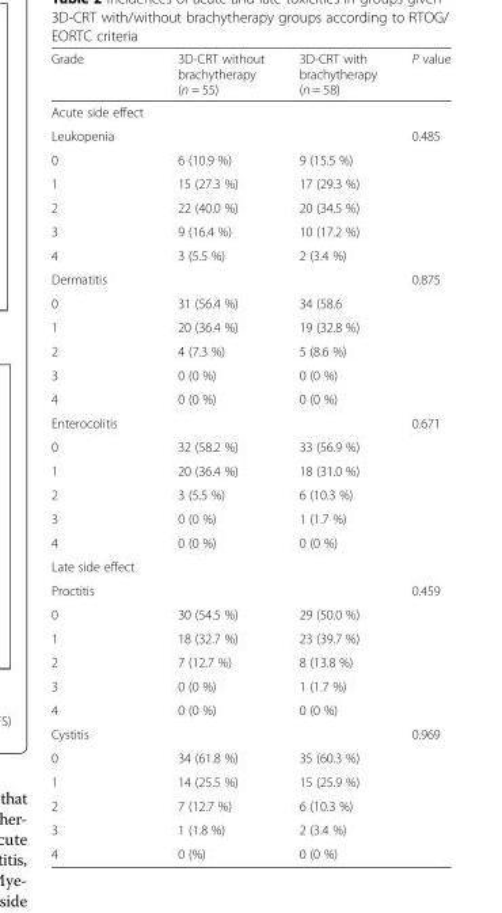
<table><thead><tr><td>Grade</td><td>3D-CRT without brachytherapy (n = 55)</td><td>3D-CRT with brachytherapy (n = 58)</td><td>P value</td></tr></thead><tbody><tr><td colspan="4">Acute side effect</td></tr><tr><td>Leukopenia</td><td></td><td></td><td>0.485</td></tr><tr><td>0</td><td>6 (10.9 %)</td><td>9 (15.5 %)</td><td></td></tr><tr><td>1</td><td>15 (27.3 %)</td><td>17 (29.3 %)</td><td></td></tr><tr><td>2</td><td>22 (40.0 %)</td><td>20 (34.5 %)</td><td></td></tr><tr><td>3</td><td>9 (16.4 %)</td><td>10 (17.2 %)</td><td></td></tr><tr><td>4</td><td>3 (5.5 %)</td><td>2 (3.4 %)</td><td></td></tr><tr><td>Dermatitis</td><td></td><td></td><td>0.875</td></tr><tr><td>0</td><td>31 (56.4 %)</td><td>34 (58.6</td><td></td></tr><tr><td>1</td><td>20 (36.4 %)</td><td>19 (32.8 %)</td><td></td></tr><tr><td>2</td><td>4 (7.3 %)</td><td>5 (8.6 %)</td><td></td></tr><tr><td>3</td><td>0 (0 %)</td><td>0 (0 %)</td><td></td></tr><tr><td>4</td><td>0 (0 %)</td><td>0 (0 %)</td><td></td></tr><tr><td>Enterocolitis</td><td></td><td></td><td>0.671</td></tr><tr><td>0</td><td>32 (58.2 %)</td><td>33 (56.9 %)</td><td></td></tr><tr><td>1</td><td>20 (36.4 %)</td><td>18 (31.0 %)</td><td></td></tr><tr><td>2</td><td>3 (5.5 %)</td><td>6 (10.3 %)</td><td></td></tr><tr><td>3</td><td>0 (0 %)</td><td>1 (1.7 %)</td><td></td></tr><tr><td>4</td><td>0 (0 %)</td><td>0 (0 %)</td><td></td></tr><tr><td colspan="4">Late side effect</td></tr><tr><td>Proctitis</td><td></td><td></td><td>0.459</td></tr><tr><td>0</td><td>30 (54.5 %)</td><td>29 (50.0 %)</td><td></td></tr><tr><td>1</td><td>18 (32.7 %)</td><td>23 (39.7 %)</td><td></td></tr><tr><td>2</td><td>7 (12.7 %)</td><td>8 (13.8 %)</td><td></td></tr><tr><td>3</td><td>0 (0 %)</td><td>1 (1.7 %)</td><td></td></tr><tr><td>4</td><td>0 (0 %)</td><td>0 (0 %)</td><td></td></tr><tr><td>Cystitis</td><td></td><td></td><td>0.969</td></tr><tr><td>0</td><td>34 (61.8 %)</td><td>35 (60.3 %)</td><td></td></tr><tr><td>1</td><td>14 (25.5 %)</td><td>15 (25.9 %)</td><td></td></tr><tr><td>2</td><td>7 (12.7 %)</td><td>6 (10.3 %)</td><td></td></tr><tr><td>3</td><td>1 (1.8 %)</td><td>2 (3.4 %)</td><td></td></tr><tr><td>4</td><td>0 (%)</td><td>0 (0 %)</td><td></td></tr></tbody></table>